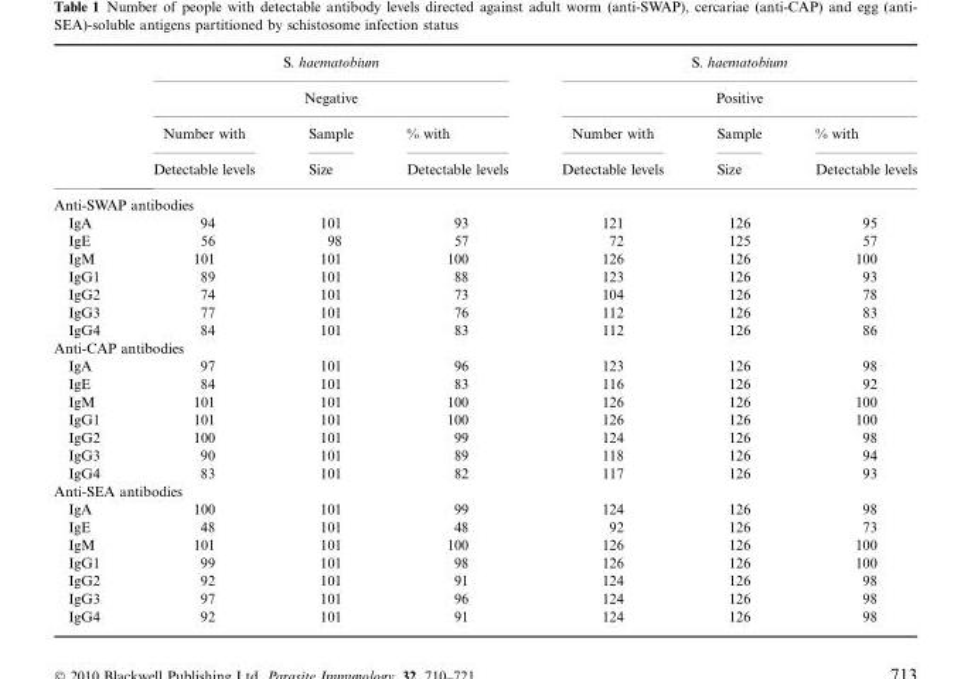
<table><thead><tr><td rowspan="4"></td><td rowspan="2" colspan="3">S. haematobium Negative</td><td rowspan="2" colspan="3">S. haematobium Positive</td></tr><tr></tr><tr><td rowspan="2">Number with Detectable levels</td><td rowspan="2">Sample Size</td><td rowspan="2">% with Detectable levels</td><td rowspan="2">Number with Detectable levels</td><td rowspan="2">Sample Size</td><td rowspan="2">% with Detectable levels</td></tr><tr></tr></thead><tbody><tr><td colspan="7">Anti-SWAP antibodies</td></tr><tr><td>IgA</td><td>94</td><td>101</td><td>93</td><td>121</td><td>126</td><td>95</td></tr><tr><td>IgE</td><td>56</td><td>98</td><td>57</td><td>72</td><td>125</td><td>57</td></tr><tr><td>IgM</td><td>101</td><td>101</td><td>100</td><td>126</td><td>126</td><td>100</td></tr><tr><td>IgG1</td><td>89</td><td>101</td><td>88</td><td>123</td><td>126</td><td>93</td></tr><tr><td>IgG2</td><td>74</td><td>101</td><td>73</td><td>104</td><td>126</td><td>78</td></tr><tr><td>IgG3</td><td>77</td><td>101</td><td>76</td><td>112</td><td>126</td><td>83</td></tr><tr><td>IgG4</td><td>84</td><td>101</td><td>83</td><td>112</td><td>126</td><td>86</td></tr><tr><td colspan="7">Anti-CAP antibodies</td></tr><tr><td>IgA</td><td>97</td><td>101</td><td>96</td><td>123</td><td>126</td><td>98</td></tr><tr><td>IgE</td><td>84</td><td>101</td><td>83</td><td>116</td><td>126</td><td>92</td></tr><tr><td>IgM</td><td>101</td><td>101</td><td>100</td><td>126</td><td>126</td><td>100</td></tr><tr><td>IgG1</td><td>101</td><td>101</td><td>100</td><td>126</td><td>126</td><td>100</td></tr><tr><td>IgG2</td><td>100</td><td>101</td><td>99</td><td>124</td><td>126</td><td>98</td></tr><tr><td>IgG3</td><td>90</td><td>101</td><td>89</td><td>118</td><td>126</td><td>94</td></tr><tr><td>IgG4</td><td>83</td><td>101</td><td>82</td><td>117</td><td>126</td><td>93</td></tr><tr><td colspan="7">Anti-SEA antibodies</td></tr><tr><td>IgA</td><td>100</td><td>101</td><td>99</td><td>124</td><td>126</td><td>98</td></tr><tr><td>IgE</td><td>48</td><td>101</td><td>48</td><td>92</td><td>126</td><td>73</td></tr><tr><td>IgM</td><td>101</td><td>101</td><td>100</td><td>126</td><td>126</td><td>100</td></tr><tr><td>IgG1</td><td>99</td><td>101</td><td>98</td><td>126</td><td>126</td><td>100</td></tr><tr><td>IgG2</td><td>92</td><td>101</td><td>91</td><td>124</td><td>126</td><td>98</td></tr><tr><td>IgG3</td><td>97</td><td>101</td><td>96</td><td>124</td><td>126</td><td>98</td></tr><tr><td>IgG4</td><td>92</td><td>101</td><td>91</td><td>124</td><td>126</td><td>98</td></tr></tbody></table>